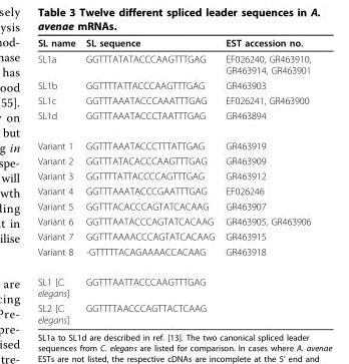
<table><thead><tr><td>SL name</td><td>SL sequence</td><td>EST accession no.</td></tr></thead><tbody><tr><td>SL1a</td><td>GGTTTATATACCCAAGTTTGAG</td><td>EF026240, GR463910, GR463914, GR463901</td></tr><tr><td>SL1b</td><td>GGTTTTATTACCCAAGTTTGAG</td><td>GR463903</td></tr><tr><td>SL1c</td><td>GGTTTAAATACCCAAATTTGAG</td><td>EF026241, GR463900</td></tr><tr><td>SL1d</td><td>GGTTTAAATACCCTAATTTGAG</td><td>GR463894</td></tr><tr><td>Variant 1</td><td>GGTTTAAATACCCTTTATTGAG</td><td>GR463919</td></tr><tr><td>Variant 2</td><td>GGTTTATACACCCAAGTTTGAG</td><td>GR463909</td></tr><tr><td>Variant 3</td><td>GGTTTTATTACCCCAGTTTGAG</td><td>GR463912</td></tr><tr><td>Variant 4</td><td>GGTTTAAATACCCGAATTTGAG</td><td>EF026246</td></tr><tr><td>Variant 5</td><td>GGTTTACACCCAGTATCACAAG</td><td>GR463907</td></tr><tr><td>Variant 6</td><td>GGTTTAATACCCAGTATCACAAG</td><td>GR463905, GR463906</td></tr><tr><td>Variant 7</td><td>GGTTTAAAACCCAGTATCACAAG</td><td>GR463915</td></tr><tr><td>Variant 8</td><td>-GTTTTTACAGAAAACCACAAG</td><td>GR463918</td></tr><tr><td>SL1 [C. elegans]</td><td>GGTTTAATTACCCAAGTTTGAG</td><td></td></tr><tr><td>SL2 [C. elegans]</td><td>GGTTTTAACCCAGTTACTCAAG</td><td></td></tr></tbody></table>